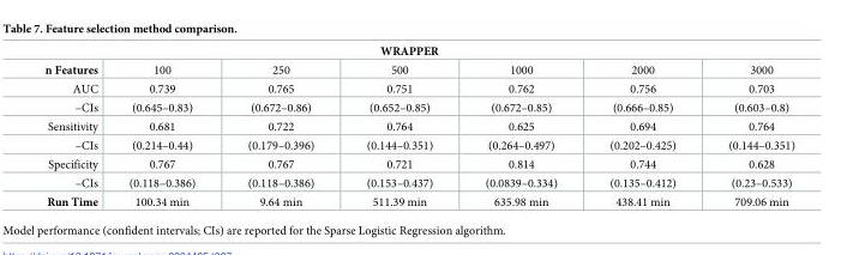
<table><thead><tr><td colspan="7">WRAPPER</td></tr><tr><td>n Features</td><td>100</td><td>250</td><td>500</td><td>1000</td><td>2000</td><td>3000</td></tr></thead><tbody><tr><td>AUC</td><td>0.739</td><td>0.765</td><td>0.751</td><td>0.762</td><td>0.756</td><td>0.703</td></tr><tr><td>–CIs</td><td>(0.645–0.83)</td><td>(0.672–0.86)</td><td>(0.652–0.85)</td><td>(0.672–0.85)</td><td>(0.666–0.85)</td><td>(0.603–0.8)</td></tr><tr><td>Sensitivity</td><td>0.681</td><td>0.722</td><td>0.764</td><td>0.625</td><td>0.694</td><td>0.764</td></tr><tr><td>–CIs</td><td>(0.214–0.44)</td><td>(0.179–0.396)</td><td>(0.144–0.351)</td><td>(0.264–0.497)</td><td>(0.202–0.425)</td><td>(0.144–0.351)</td></tr><tr><td>Specificity</td><td>0.767</td><td>0.767</td><td>0.721</td><td>0.814</td><td>0.744</td><td>0.628</td></tr><tr><td>–CIs</td><td>(0.118–0.386)</td><td>(0.118–0.386)</td><td>(0.153–0.437)</td><td>(0.0839–0.334)</td><td>(0.135–0.412)</td><td>(0.23–0.533)</td></tr><tr><td>Run Time</td><td>100.34 min</td><td>9.64 min</td><td>511.39 min</td><td>635.98 min</td><td>438.41 min</td><td>709.06 min</td></tr></tbody></table>